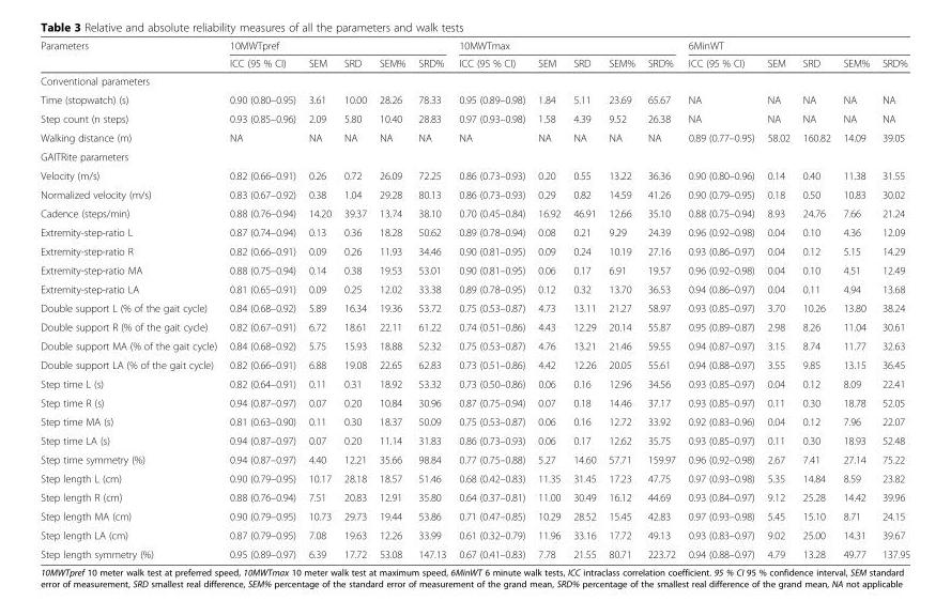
<table><thead><tr><td rowspan="2">Parameters</td><td colspan="5">10MWTpref</td><td colspan="5">10MWTmax</td><td colspan="5">6MinWT</td></tr><tr><td>ICC (95 % CI)</td><td>SEM</td><td>SRD</td><td>SEM%</td><td>SRD%</td><td>ICC (95 % CI)</td><td>SEM</td><td>SRD</td><td>SEM%</td><td>SRD%</td><td>ICC (95 % CI)</td><td>SEM</td><td>SRD</td><td>SEM%</td><td>SRD%</td></tr></thead><tbody><tr><td colspan="16">Conventional parameters</td></tr><tr><td>Time (stopwatch) (s)</td><td>0.90 (0.80–0.95)</td><td>3.61</td><td>10.00</td><td>28.26</td><td>78.33</td><td>0.95 (0.89–0.98)</td><td>1.84</td><td>5.11</td><td>23.69</td><td>65.67</td><td>NA</td><td>NA</td><td>NA</td><td>NA</td><td>NA</td></tr><tr><td>Step count (n steps)</td><td>0.93 (0.85–0.96)</td><td>2.09</td><td>5.80</td><td>10.40</td><td>28.83</td><td>0.97 (0.93–0.98)</td><td>1.58</td><td>4.39</td><td>9.52</td><td>26.38</td><td>NA</td><td>NA</td><td>NA</td><td>NA</td><td>NA</td></tr><tr><td>Walking distance (m)</td><td>NA</td><td>NA</td><td>NA</td><td>NA</td><td>NA</td><td>NA</td><td>NA</td><td>NA</td><td>NA</td><td>NA</td><td>0.89 (0.77–0.95)</td><td>58.02</td><td>160.82</td><td>14.09</td><td>39.05</td></tr><tr><td colspan="16">GAITRite parameters</td></tr><tr><td>Velocity (m/s)</td><td>0.82 (0.66–0.91)</td><td>0.26</td><td>0.72</td><td>26.09</td><td>72.25</td><td>0.86 (0.73–0.93)</td><td>0.20</td><td>0.55</td><td>13.22</td><td>36.36</td><td>0.90 (0.80–0.96)</td><td>0.14</td><td>0.40</td><td>11.38</td><td>31.55</td></tr><tr><td>Normalized velocity (m/s)</td><td>0.83 (0.67–0.92)</td><td>0.38</td><td>1.04</td><td>29.28</td><td>80.13</td><td>0.86 (0.73–0.93)</td><td>0.29</td><td>0.82</td><td>14.59</td><td>41.26</td><td>0.90 (0.79–0.95)</td><td>0.18</td><td>0.50</td><td>10.83</td><td>30.02</td></tr><tr><td>Cadence (steps/min)</td><td>0.88 (0.76–0.94)</td><td>14.20</td><td>39.37</td><td>13.74</td><td>38.10</td><td>0.70 (0.45–0.84)</td><td>16.92</td><td>46.91</td><td>12.66</td><td>35.10</td><td>0.88 (0.75–0.94)</td><td>8.93</td><td>24.76</td><td>7.66</td><td>21.24</td></tr><tr><td>Extremity-step-ratio L</td><td>0.87 (0.74–0.94)</td><td>0.13</td><td>0.36</td><td>18.28</td><td>50.62</td><td>0.89 (0.78–0.94)</td><td>0.08</td><td>0.21</td><td>9.29</td><td>24.39</td><td>0.96 (0.92–0.98)</td><td>0.04</td><td>0.10</td><td>4.36</td><td>12.09</td></tr><tr><td>Extremity-step-ratio R</td><td>0.82 (0.66–0.91)</td><td>0.09</td><td>0.26</td><td>11.93</td><td>34.46</td><td>0.90 (0.81–0.95)</td><td>0.09</td><td>0.24</td><td>10.19</td><td>27.16</td><td>0.93 (0.86–0.97)</td><td>0.04</td><td>0.12</td><td>5.15</td><td>14.29</td></tr><tr><td>Extremity-step-ratio MA</td><td>0.88 (0.75–0.94)</td><td>0.14</td><td>0.38</td><td>19.53</td><td>53.01</td><td>0.90 (0.81–0.95)</td><td>0.06</td><td>0.17</td><td>6.91</td><td>19.57</td><td>0.96 (0.92–0.98)</td><td>0.04</td><td>0.10</td><td>4.51</td><td>12.49</td></tr><tr><td>Extremity-step-ratio LA</td><td>0.81 (0.65–0.91)</td><td>0.09</td><td>0.25</td><td>12.02</td><td>33.38</td><td>0.89 (0.78–0.95)</td><td>0.12</td><td>0.32</td><td>13.70</td><td>36.53</td><td>0.94 (0.86–0.97)</td><td>0.04</td><td>0.11</td><td>4.94</td><td>13.68</td></tr><tr><td>Double support L (% of the gait cycle)</td><td>0.84 (0.68–0.92)</td><td>5.89</td><td>16.34</td><td>19.36</td><td>53.72</td><td>0.75 (0.53–0.87)</td><td>4.73</td><td>13.11</td><td>21.27</td><td>58.97</td><td>0.93 (0.85–0.97)</td><td>3.70</td><td>10.26</td><td>13.80</td><td>38.24</td></tr><tr><td>Double support R (% of the gait cycle)</td><td>0.82 (0.67–0.91)</td><td>6.72</td><td>18.61</td><td>22.11</td><td>61.22</td><td>0.74 (0.51–0.86)</td><td>4.43</td><td>12.29</td><td>20.14</td><td>55.87</td><td>0.95 (0.89–0.87)</td><td>2.98</td><td>8.26</td><td>11.04</td><td>30.61</td></tr><tr><td>Double support MA (% of the gait cycle)</td><td>0.84 (0.68–0.92)</td><td>5.75</td><td>15.93</td><td>18.88</td><td>52.32</td><td>0.75 (0.53–0.87)</td><td>4.76</td><td>13.21</td><td>21.46</td><td>59.55</td><td>0.94 (0.87–0.97)</td><td>3.15</td><td>8.74</td><td>11.77</td><td>32.63</td></tr><tr><td>Double support LA (% of the gait cycle)</td><td>0.82 (0.66–0.91)</td><td>6.88</td><td>19.08</td><td>22.65</td><td>62.83</td><td>0.73 (0.51–0.86)</td><td>4.42</td><td>12.26</td><td>20.05</td><td>55.61</td><td>0.94 (0.88–0.97)</td><td>3.55</td><td>9.85</td><td>13.15</td><td>36.45</td></tr><tr><td>Step time L (s)</td><td>0.82 (0.64–0.91)</td><td>0.11</td><td>0.31</td><td>18.92</td><td>53.32</td><td>0.73 (0.50–0.86)</td><td>0.06</td><td>0.16</td><td>12.96</td><td>34.56</td><td>0.93 (0.85–0.97)</td><td>0.04</td><td>0.12</td><td>8.09</td><td>22.41</td></tr><tr><td>Step time R (s)</td><td>0.94 (0.87–0.97)</td><td>0.07</td><td>0.20</td><td>10.84</td><td>30.96</td><td>0.87 (0.75–0.94)</td><td>0.07</td><td>0.18</td><td>14.46</td><td>37.17</td><td>0.93 (0.85–0.97)</td><td>0.11</td><td>0.30</td><td>18.78</td><td>52.05</td></tr><tr><td>Step time MA (s)</td><td>0.81 (0.63–0.90)</td><td>0.11</td><td>0.30</td><td>18.37</td><td>50.09</td><td>0.75 (0.53–0.87)</td><td>0.06</td><td>0.16</td><td>12.72</td><td>33.92</td><td>0.92 (0.83–0.96)</td><td>0.04</td><td>0.12</td><td>7.96</td><td>22.07</td></tr><tr><td>Step time LA (s)</td><td>0.94 (0.87–0.97)</td><td>0.07</td><td>0.20</td><td>11.14</td><td>31.83</td><td>0.86 (0.73–0.93)</td><td>0.06</td><td>0.17</td><td>12.62</td><td>35.75</td><td>0.93 (0.85–0.97)</td><td>0.11</td><td>0.30</td><td>18.93</td><td>52.48</td></tr><tr><td>Step time symmetry (%)</td><td>0.94 (0.87–0.97)</td><td>4.40</td><td>12.21</td><td>35.66</td><td>98.84</td><td>0.77 (0.75–0.88)</td><td>5.27</td><td>14.60</td><td>57.71</td><td>159.97</td><td>0.96 (0.92–0.98)</td><td>2.67</td><td>7.41</td><td>27.14</td><td>75.22</td></tr><tr><td>Step length L (cm)</td><td>0.90 (0.79–0.95)</td><td>10.17</td><td>28.18</td><td>18.57</td><td>51.46</td><td>0.68 (0.42–0.83)</td><td>11.35</td><td>31.45</td><td>17.23</td><td>47.75</td><td>0.97 (0.93–0.98)</td><td>5.35</td><td>14.84</td><td>8.59</td><td>23.82</td></tr><tr><td>Step length R (cm)</td><td>0.88 (0.76–0.94)</td><td>7.51</td><td>20.83</td><td>12.91</td><td>35.80</td><td>0.64 (0.37–0.81)</td><td>11.00</td><td>30.49</td><td>16.12</td><td>44.69</td><td>0.93 (0.84–0.97)</td><td>9.12</td><td>25.28</td><td>14.42</td><td>39.96</td></tr><tr><td>Step length MA (cm)</td><td>0.90 (0.79–0.95)</td><td>10.73</td><td>29.73</td><td>19.44</td><td>53.86</td><td>0.71 (0.47–0.85)</td><td>10.29</td><td>28.52</td><td>15.45</td><td>42.83</td><td>0.97 (0.93–0.98)</td><td>5.45</td><td>15.10</td><td>8.71</td><td>24.15</td></tr><tr><td>Step length LA (cm)</td><td>0.87 (0.79–0.95)</td><td>7.08</td><td>19.63</td><td>12.26</td><td>33.99</td><td>0.61 (0.32–0.79)</td><td>11.96</td><td>33.16</td><td>17.72</td><td>49.13</td><td>0.93 (0.83–0.97)</td><td>9.02</td><td>25.00</td><td>14.31</td><td>39.67</td></tr><tr><td>Step length symmetry (%)</td><td>0.95 (0.89–0.97)</td><td>6.39</td><td>17.72</td><td>53.08</td><td>147.13</td><td>0.67 (0.41–0.83)</td><td>7.78</td><td>21.55</td><td>80.71</td><td>223.72</td><td>0.94 (0.88–0.97)</td><td>4.79</td><td>13.28</td><td>49.77</td><td>137.95</td></tr></tbody></table>